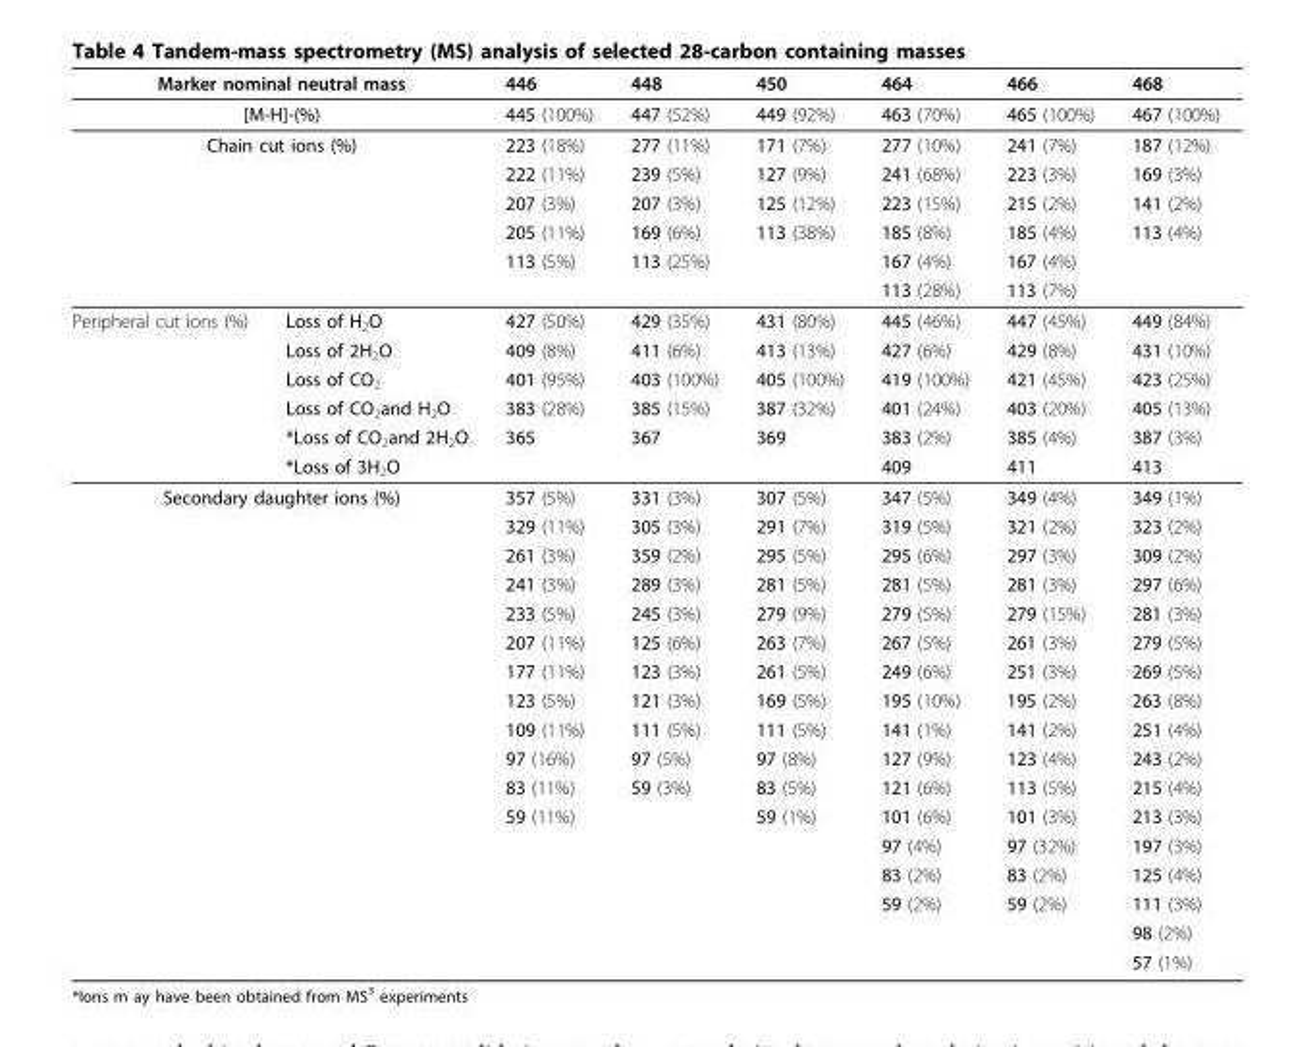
<table><thead><tr><td rowspan="3" colspan="2">Marker nominal neutral mass [M-H]-(%) Chain cut ions (%)</td><td rowspan="4">446 445 (100%) 223 (18%) 222 (11%)</td><td rowspan="4">448 447 (52%) 277 (11%) 239 (5%)</td><td rowspan="4">450 449 (92%) 171 (7%) 127 (9%)</td><td rowspan="4">464 463 (70%) 277 (10%) 241 (68%)</td><td rowspan="4">466 465 (100%) 241 (7%) 223 (3%)</td><td rowspan="4">468 467 (100%) 187 (12%) 169 (3%)</td></tr><tr></tr><tr></tr><tr><td></td><td></td></tr></thead><tbody><tr><td></td><td></td><td>207 (3%)</td><td>207 (3%)</td><td>125 (12%)</td><td>223 (15%)</td><td>215 (2%)</td><td>141 (2%)</td></tr><tr><td></td><td></td><td>205 (11%)</td><td>169 (6%)</td><td>113 (38%)</td><td>185 (8%)</td><td>185 (4%)</td><td>113 (4%)</td></tr><tr><td></td><td></td><td>113 (5%)</td><td>113 (25%)</td><td></td><td>167 (4%)</td><td>167 (4%)</td><td></td></tr><tr><td></td><td></td><td></td><td></td><td></td><td>113 (28%)</td><td>113 (7%)</td><td></td></tr><tr><td rowspan="6">Peripheral cut ions (%)</td><td>Loss of H<sub>2</sub>O</td><td>427 (50%)</td><td>429 (35%)</td><td>431 (80%)</td><td>445 (46%)</td><td>447 (45%)</td><td>449 (84%)</td></tr><tr><td>Loss of 2H<sub>2</sub>O</td><td>409 (8%)</td><td>411 (6%)</td><td>413 (13%)</td><td>427 (6%)</td><td>429 (8%)</td><td>431 (10%)</td></tr><tr><td>Loss of CO<sub>2</sub></td><td>401 (95%)</td><td>403 (100%)</td><td>405 (100%)</td><td>419 (100%)</td><td>421 (45%)</td><td>423 (25%)</td></tr><tr><td>Loss of CO<sub>2</sub>and H<sub>2</sub>O</td><td>383 (28%)</td><td>385 (15%)</td><td>387 (32%)</td><td>401 (24%)</td><td>403 (20%)</td><td>405 (13%)</td></tr><tr><td>*Loss of CO<sub>2</sub>and 2H<sub>2</sub>O</td><td>365</td><td>367</td><td>369</td><td>383 (2%)</td><td>385 (4%)</td><td>387 (3%)</td></tr><tr><td>*Loss of 3H<sub>2</sub>O</td><td></td><td></td><td></td><td>409</td><td>411</td><td>413</td></tr><tr><td colspan="2">Secondary daughter ions (%)</td><td>357 (5%)</td><td>331 (3%)</td><td>307 (5%)</td><td>347 (5%)</td><td>349 (4%)</td><td>349 (1%)</td></tr><tr><td></td><td></td><td>329 (11%)</td><td>305 (3%)</td><td>291 (7%)</td><td>319 (5%)</td><td>321 (2%)</td><td>323 (2%)</td></tr><tr><td></td><td></td><td>261 (3%)</td><td>359 (2%)</td><td>295 (5%)</td><td>295 (6%)</td><td>297 (3%)</td><td>309 (2%)</td></tr><tr><td></td><td></td><td>241 (3%)</td><td>289 (3%)</td><td>281 (5%)</td><td>281 (5%)</td><td>281 (3%)</td><td>297 (6%)</td></tr><tr><td></td><td></td><td>233 (5%)</td><td>245 (3%)</td><td>279 (9%)</td><td>279 (5%)</td><td>279 (15%)</td><td>281 (3%)</td></tr><tr><td></td><td></td><td>207 (11%)</td><td>125 (6%)</td><td>263 (7%)</td><td>267 (5%)</td><td>261 (3%)</td><td>279 (5%)</td></tr><tr><td></td><td></td><td>177 (11%)</td><td>123 (3%)</td><td>261 (5%)</td><td>249 (6%)</td><td>251 (3%)</td><td>269 (5%)</td></tr><tr><td></td><td></td><td>123 (5%)</td><td>121 (3%)</td><td>169 (5%)</td><td>195 (10%)</td><td>195 (2%)</td><td>263 (8%)</td></tr><tr><td></td><td></td><td>109 (11%)</td><td>111 (5%)</td><td>111 (5%)</td><td>141 (1%)</td><td>141 (2%)</td><td>251 (4%)</td></tr><tr><td></td><td></td><td>97 (16%)</td><td>97 (5%)</td><td>97 (8%)</td><td>127 (9%)</td><td>123 (4%)</td><td>243 (2%)</td></tr><tr><td></td><td></td><td>83 (11%)</td><td>59 (3%)</td><td>83 (5%)</td><td>121 (6%)</td><td>113 (5%)</td><td>215 (4%)</td></tr><tr><td></td><td></td><td>59 (11%)</td><td></td><td>59 (1%)</td><td>101 (6%)</td><td>101 (3%)</td><td>213 (3%)</td></tr><tr><td></td><td></td><td></td><td></td><td></td><td>97 (4%)</td><td>97 (32%)</td><td>197 (3%)</td></tr><tr><td></td><td></td><td></td><td></td><td></td><td>83 (2%)</td><td>83 (2%)</td><td>125 (4%)</td></tr><tr><td></td><td></td><td></td><td></td><td></td><td>59 (2%)</td><td>59 (2%)</td><td>111 (3%)</td></tr><tr><td></td><td></td><td></td><td></td><td></td><td></td><td></td><td>98 (2%)</td></tr><tr><td></td><td></td><td></td><td></td><td></td><td></td><td></td><td>57 (1%)</td></tr></tbody></table>